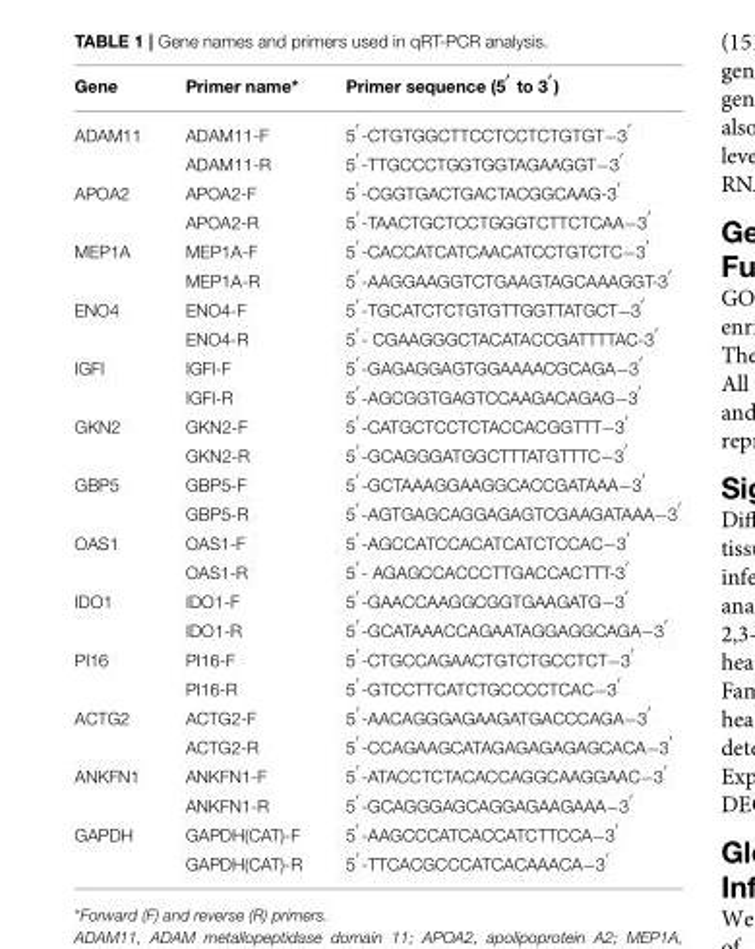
<table><thead><tr><td>Gene</td><td>Primer name*</td><td>Primer sequence (5 ′ to 3 ′)</td></tr></thead><tbody><tr><td rowspan="2">ADAM11</td><td>ADAM11-F</td><td>5 ′-CTGTGGCTTCCTCCTCTGTGT−3 ′</td></tr><tr><td>ADAM11-R</td><td>5 ′-TTGCCCTGGTGGTAGAAGGT−3 ′</td></tr><tr><td rowspan="2">APOA2</td><td>APOA2-F</td><td>5 ′-CGGTGACTGACTACGGCAAG-3 ′</td></tr><tr><td>APOA2-R</td><td>5 ′-TAACTGCTCCTGGGTCTTCTCAA−3 ′</td></tr><tr><td rowspan="2">MEP1A</td><td>MEP1A-F</td><td>5 ′-CACCATCATCAACATCCTGTCTC−3 ′</td></tr><tr><td>MEP1A-R</td><td>5 ′-AAGGAAGGTCTGAAGTAGCAAAGGT-3 ′</td></tr><tr><td rowspan="2">ENO4</td><td>ENO4-F</td><td>5 ′-TGCATCTCTGTGTTGGTTATGCT−3 ′</td></tr><tr><td>ENO4-R</td><td>5 ′- CGAAGGGCTACATACCGATTTTAC-3 ′</td></tr><tr><td rowspan="2">IGFI</td><td>IGFI-F</td><td>5 ′-GAGAGGAGTGGAAAACGCAGA−3 ′</td></tr><tr><td>IGFI-R</td><td>5 ′-AGCGGTGAGTCCAAGACAGAG−3 ′</td></tr><tr><td rowspan="2">GKN2</td><td>GKN2-F</td><td>5 ′-CATGCTCCTCTACCACGGTTT−3 ′</td></tr><tr><td>GKN2-R</td><td>5 ′-GCAGGGATGGCTTTATGTTTC−3 ′</td></tr><tr><td rowspan="2">GBP5</td><td>GBP5-F</td><td>5 ′-GCTAAAGGAAGGCACCGATAAA−3 ′</td></tr><tr><td>GBP5-R</td><td>5 ′-AGTGAGCAGGAGAGTCGAAGATAAA−3 ′</td></tr><tr><td rowspan="2">OAS1</td><td>OAS1-F</td><td>5 ′-AGCCATCCACATCATCTCCAC−3 ′</td></tr><tr><td>OAS1-R</td><td>5 ′- AGAGCCACCCTTGACCACTTT-3 ′</td></tr><tr><td rowspan="2">IDO1</td><td>IDO1-F</td><td>5 ′-GAACCAAGGCGGTGAAGATG−3 ′</td></tr><tr><td>IDO1-R</td><td>5 ′-GCATAAACCAGAATAGGAGGCAGA−3 ′</td></tr><tr><td rowspan="2">PI16</td><td>PI16-F</td><td>5 ′-CTGCCAGAACTGTCTGCCTCT−3 ′</td></tr><tr><td>PI16-R</td><td>5 ′-GTCCTTCATCTGCCCCTCAC−3 ′</td></tr><tr><td rowspan="2">ACTG2</td><td>ACTG2-F</td><td>5 ′-AACAGGGAGAAGATGACCCAGA−3 ′</td></tr><tr><td>ACTG2-R</td><td>5 ′-CCAGAAGCATAGAGAGAGAGCACA−3 ′</td></tr><tr><td rowspan="2">ANKFN1</td><td>ANKFN1-F</td><td>5 ′-ATACCTCTACACCAGGCAAGGAAC−3 ′</td></tr><tr><td>ANKFN1-R</td><td>5 ′-GCAGGGAGCAGGAGAAGAAA−3 ′</td></tr><tr><td rowspan="2">GAPDH</td><td>GAPDH(CAT)-F</td><td>5 ′-AAGCCCATCACCATCTTCCA−3 ′</td></tr><tr><td>GAPDH(CAT)-R</td><td>5 ′-TTCACGCCCATCACAAACA−3 ′</td></tr></tbody></table>